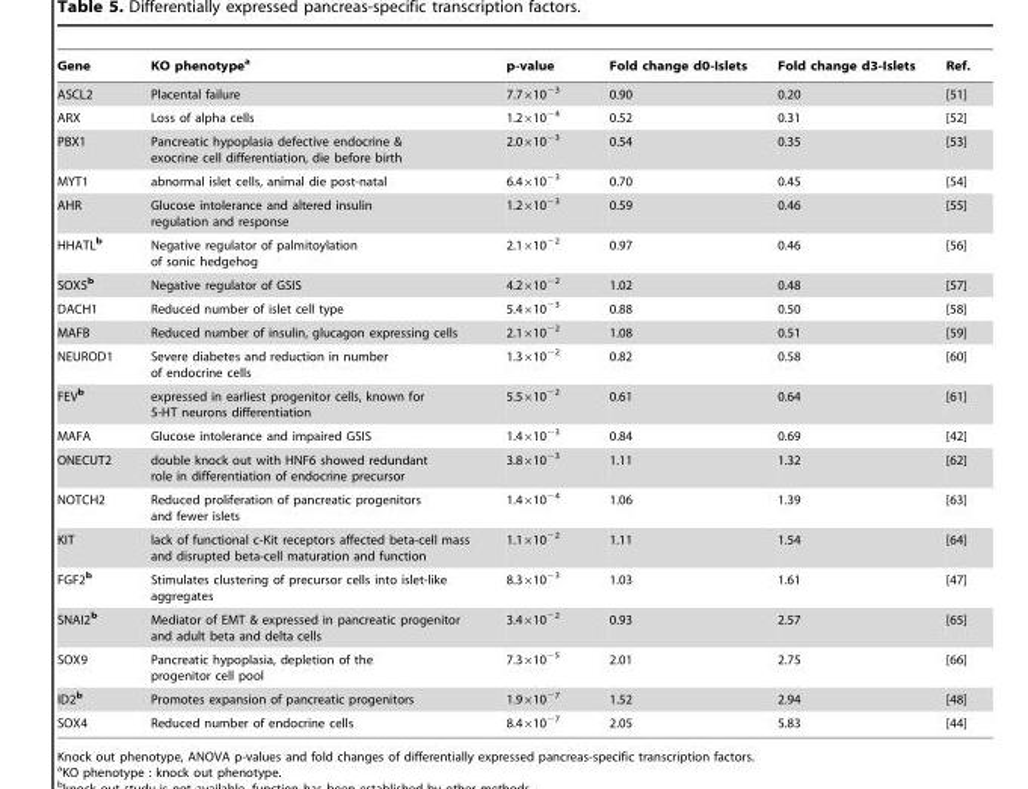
<table><thead><tr><td>Gene</td><td>KO phenotype<sup>a</sup></td><td>p-value</td><td>Fold change d0-Islets</td><td>Fold change d3-Islets</td><td>Ref.</td></tr></thead><tbody><tr><td>ASCL2</td><td>Placental failure</td><td>7.7×10<sup>−3</sup></td><td>0.90</td><td>0.20</td><td>[51]</td></tr><tr><td>ARX</td><td>Loss of alpha cells</td><td>1.2×10<sup>−4</sup></td><td>0.52</td><td>0.31</td><td>[52]</td></tr><tr><td>PBX1</td><td>Pancreatic hypoplasia defective endocrine &amp; exocrine cell differentiation, die before birth</td><td>2.0×10<sup>−3</sup></td><td>0.54</td><td>0.35</td><td>[53]</td></tr><tr><td>MYT1</td><td>abnormal islet cells, animal die post-natal</td><td>6.4×10<sup>−3</sup></td><td>0.70</td><td>0.45</td><td>[54]</td></tr><tr><td>AHR</td><td>Glucose intolerance and altered insulin regulation and response</td><td>1.2×10<sup>−3</sup></td><td>0.59</td><td>0.46</td><td>[55]</td></tr><tr><td>HHATL<sup>b</sup></td><td>Negative regulator of palmitoylation of sonic hedgehog</td><td>2.1×10<sup>−2</sup></td><td>0.97</td><td>0.46</td><td>[56]</td></tr><tr><td>SOX5<sup>b</sup></td><td>Negative regulator of GSIS</td><td>4.2×10<sup>−2</sup></td><td>1.02</td><td>0.48</td><td>[57]</td></tr><tr><td>DACH1</td><td>Reduced number of islet cell type</td><td>5.4×10<sup>−3</sup></td><td>0.88</td><td>0.50</td><td>[58]</td></tr><tr><td>MAFB</td><td>Reduced number of insulin, glucagon expressing cells</td><td>2.1×10<sup>−2</sup></td><td>1.08</td><td>0.51</td><td>[59]</td></tr><tr><td>NEUROD1</td><td>Severe diabetes and reduction in number of endocrine cells</td><td>1.3×10<sup>−2</sup></td><td>0.82</td><td>0.58</td><td>[60]</td></tr><tr><td>FEV<sup>b</sup></td><td>expressed in earliest progenitor cells, known for 5-HT neurons differentiation</td><td>5.5×10<sup>−2</sup></td><td>0.61</td><td>0.64</td><td>[61]</td></tr><tr><td>MAFA</td><td>Glucose intolerance and impaired GSIS</td><td>1.4×10<sup>−3</sup></td><td>0.84</td><td>0.69</td><td>[42]</td></tr><tr><td>ONECUT2</td><td>double knock out with HNF6 showed redundant role in differentiation of endocrine precursor</td><td>3.8×10<sup>−3</sup></td><td>1.11</td><td>1.32</td><td>[62]</td></tr><tr><td>NOTCH2</td><td>Reduced proliferation of pancreatic progenitors and fewer islets</td><td>1.4×10<sup>−4</sup></td><td>1.06</td><td>1.39</td><td>[63]</td></tr><tr><td>KIT</td><td>lack of functional c-Kit receptors affected beta-cell mass and disrupted beta-cell maturation and function</td><td>1.1×10<sup>−2</sup></td><td>1.11</td><td>1.54</td><td>[64]</td></tr><tr><td>FGF2<sup>b</sup></td><td>Stimulates clustering of precursor cells into islet-like aggregates</td><td>8.3×10<sup>−3</sup></td><td>1.03</td><td>1.61</td><td>[47]</td></tr><tr><td>SNAI2<sup>b</sup></td><td>Mediator of EMT &amp; expressed in pancreatic progenitor and adult beta and delta cells</td><td>3.4×10<sup>−2</sup></td><td>0.93</td><td>2.57</td><td>[65]</td></tr><tr><td>SOX9</td><td>Pancreatic hypoplasia, depletion of the progenitor cell pool</td><td>7.3×10<sup>−5</sup></td><td>2.01</td><td>2.75</td><td>[66]</td></tr><tr><td>ID2<sup>b</sup></td><td>Promotes expansion of pancreatic progenitors</td><td>1.9×10<sup>−7</sup></td><td>1.52</td><td>2.94</td><td>[48]</td></tr><tr><td>SOX4</td><td>Reduced number of endocrine cells</td><td>8.4×10<sup>−7</sup></td><td>2.05</td><td>5.83</td><td>[44]</td></tr></tbody></table>